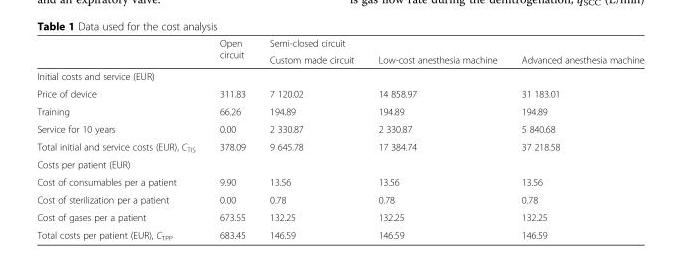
<table><thead><tr><td rowspan="2"></td><td rowspan="2">Open circuit</td><td colspan="3">Semi-closed circuit</td></tr><tr><td>Custom made circuit</td><td>Low-cost anesthesia machine</td><td>Advanced anesthesia machine</td></tr></thead><tbody><tr><td colspan="5">Initial costs and service (EUR)</td></tr><tr><td>Price of device</td><td>311.83</td><td>7 120.02</td><td>14 858.97</td><td>31 183.01</td></tr><tr><td>Training</td><td>66.26</td><td>194.89</td><td>194.89</td><td>194.89</td></tr><tr><td>Service for 10 years</td><td>0.00</td><td>2 330.87</td><td>2 330.87</td><td>5 840.68</td></tr><tr><td>Total initial and service costs (EUR), C<sub>TIS</sub></td><td>378.09</td><td>9 645.78</td><td>17 384.74</td><td>37 218.58</td></tr><tr><td colspan="5">Costs per patient (EUR)</td></tr><tr><td>Cost of consumables per a patient</td><td>9.90</td><td>13.56</td><td>13.56</td><td>13.56</td></tr><tr><td>Cost of sterilization per a patient</td><td>0.00</td><td>0.78</td><td>0.78</td><td>0.78</td></tr><tr><td>Cost of gases per a patient</td><td>673.55</td><td>132.25</td><td>132.25</td><td>132.25</td></tr><tr><td>Total costs per patient (EUR), C<sub>TPP</sub></td><td>683.45</td><td>146.59</td><td>146.59</td><td>146.59</td></tr></tbody></table>